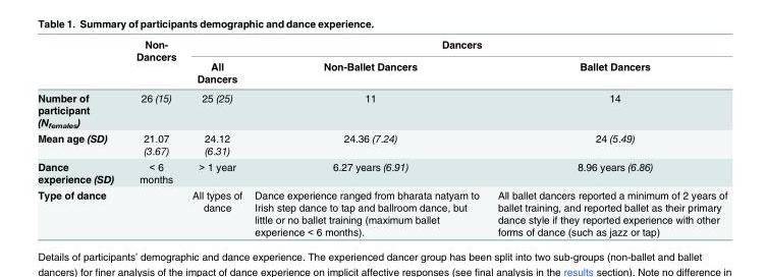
<table><thead><tr><td rowspan="2"></td><td rowspan="2">Non- Dancers</td><td colspan="3">Dancers</td></tr><tr><td>All Dancers</td><td>Non-Ballet Dancers</td><td>Ballet Dancers</td></tr></thead><tbody><tr><td>Number of participant (N<sub>females</sub>)</td><td>26 (15)</td><td>25 (25)</td><td>11</td><td>14</td></tr><tr><td>Mean age (SD)</td><td>21.07 (3.67)</td><td>24.12 (6.31)</td><td>24.36 (7.24)</td><td>24 (5.49)</td></tr><tr><td>Dance experience (SD)</td><td>&lt; 6 months</td><td>&gt; 1 year</td><td>6.27 years (6.91)</td><td>8.96 years (6.86)</td></tr><tr><td>Type of dance</td><td></td><td>All types of dance</td><td>Dance experience ranged from bharata natyam to Irish step dance to tap and ballroom dance, but little or no ballet training (maximum ballet experience &lt; 6 months).</td><td>All ballet dancers reported a minimum of 2 years of ballet training, and reported ballet as their primary dance style if they reported experience with other forms of dance (such as jazz or tap)</td></tr></tbody></table>